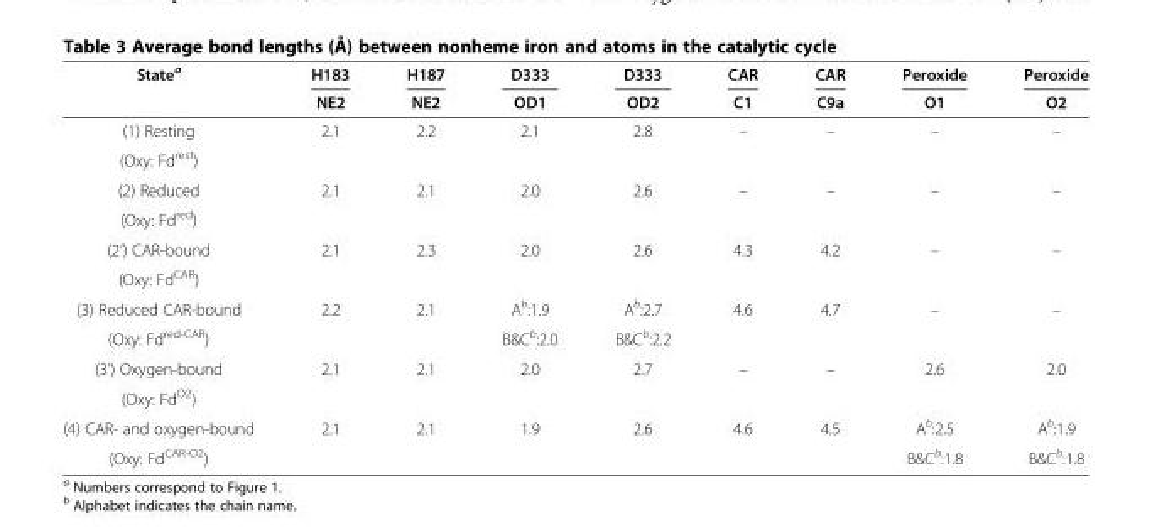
<table><thead><tr><td rowspan="2">State<sup>a</sup></td><td rowspan="2">H183 NE2</td><td rowspan="2">H187 NE2</td><td rowspan="2">D333 OD1</td><td rowspan="2">D333 OD2</td><td rowspan="2">CAR C1</td><td rowspan="2">CAR C9a</td><td rowspan="2">Peroxide O1</td><td rowspan="2">Peroxide O2</td></tr><tr></tr></thead><tbody><tr><td>(1) Resting</td><td rowspan="2">2.1</td><td rowspan="2">2.2</td><td rowspan="2">2.1</td><td rowspan="2">2.8</td><td rowspan="2">–</td><td rowspan="2">–</td><td rowspan="2">–</td><td rowspan="2">–</td></tr><tr><td>(Oxy: Fd<sup>rest</sup>)</td></tr><tr><td>(2) Reduced</td><td rowspan="2">2.1</td><td rowspan="2">2.1</td><td rowspan="2">2.0</td><td rowspan="2">2.6</td><td rowspan="2">–</td><td rowspan="2">–</td><td rowspan="2">–</td><td rowspan="2">–</td></tr><tr><td>(Oxy: Fd<sup>red</sup>)</td></tr><tr><td>(2’) CAR-bound</td><td rowspan="2">2.1</td><td rowspan="2">2.3</td><td rowspan="2">2.0</td><td rowspan="2">2.6</td><td rowspan="2">4.3</td><td rowspan="2">4.2</td><td rowspan="2">–</td><td rowspan="2">–</td></tr><tr><td>(Oxy: Fd<sup>CAR</sup>)</td></tr><tr><td>(3) Reduced CAR-bound</td><td rowspan="2">2.2</td><td rowspan="2">2.1</td><td>A<sup>b</sup>:1.9</td><td>A<sup>b</sup>:2.7</td><td rowspan="2">4.6</td><td rowspan="2">4.7</td><td rowspan="2">–</td><td rowspan="2">–</td></tr><tr><td>(Oxy: Fd<sup>red-CAR</sup>)</td><td>B&amp;C<sup>b</sup>:2.0</td><td>B&amp;C<sup>b</sup>:2.2</td></tr><tr><td>(3’) Oxygen-bound</td><td rowspan="2">2.1</td><td rowspan="2">2.1</td><td rowspan="2">2.0</td><td rowspan="2">2.7</td><td rowspan="2">–</td><td rowspan="2">–</td><td rowspan="2">2.6</td><td rowspan="2">2.0</td></tr><tr><td>(Oxy: Fd<sup>O2</sup>)</td></tr><tr><td>(4) CAR- and oxygen-bound</td><td>2.1</td><td>2.1</td><td>1.9</td><td>2.6</td><td>4.6</td><td>4.5</td><td>A<sup>b</sup>:2.5</td><td>A<sup>b</sup>:1.9</td></tr><tr><td>(Oxy: Fd<sup>CAR-O2</sup>)</td><td></td><td></td><td></td><td></td><td></td><td></td><td>B&amp;C<sup>b</sup>:1.8</td><td>B&amp;C<sup>b</sup>:1.8</td></tr></tbody></table>